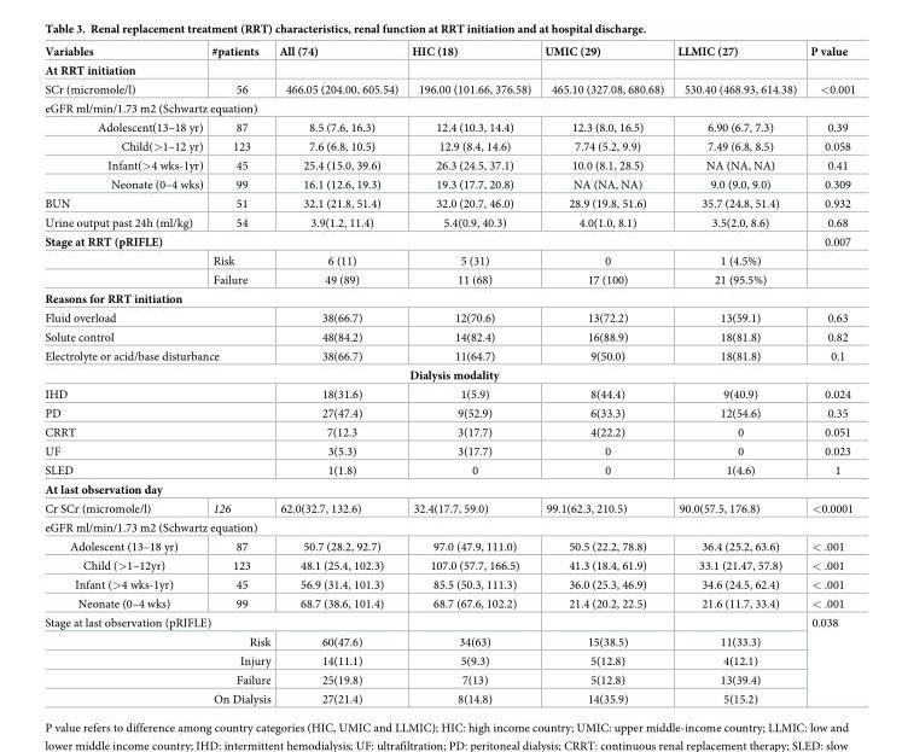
<table><thead><tr><td>Variables</td><td>#patients</td><td>All (74)</td><td>HIC (18)</td><td>UMIC (29)</td><td>LLMIC (27)</td><td>P value</td></tr></thead><tbody><tr><td colspan="7">At RRT initiation</td></tr><tr><td>SCr (micromole/l)</td><td>56</td><td>466.05 (204.00, 605.54)</td><td>196.00 (101.66, 376.58)</td><td>465.10 (327.08, 680.68)</td><td>530.40 (468.93, 614.38)</td><td>&lt;0.001</td></tr><tr><td colspan="7">eGFR ml/min/1.73 m2 (Schwartz equation)</td></tr><tr><td>Adolescent(13–18 yr)</td><td>87</td><td>8.5 (7.6, 16.3)</td><td>12.4 (10.3, 14.4)</td><td>12.3 (8.0, 16.5)</td><td>6.90 (6.7, 7.3)</td><td>0.39</td></tr><tr><td>Child(&gt;1–12 yr)</td><td>123</td><td>7.6 (6.8, 10.5)</td><td>12.9 (8.4, 14.6)</td><td>7.74 (5.2, 9.9)</td><td>7.49 (6.8, 8.5)</td><td>0.058</td></tr><tr><td>Infant(&gt;4 wks-1yr)</td><td>45</td><td>25.4 (15.0, 39.6)</td><td>26.3 (24.5, 37.1)</td><td>10.0 (8.1, 28.5)</td><td>NA (NA, NA)</td><td>0.41</td></tr><tr><td>Neonate (0–4 wks)</td><td>99</td><td>16.1 (12.6, 19.3)</td><td>19.3 (17.7, 20.8)</td><td>NA (NA, NA)</td><td>9.0 (9.0, 9.0)</td><td>0.309</td></tr><tr><td>BUN</td><td>51</td><td>32.1 (21.8, 51.4)</td><td>32.0 (20.7, 46.0)</td><td>28.9 (19.8, 51.6)</td><td>35.7 (24.8, 51.4)</td><td>0.932</td></tr><tr><td>Urine output past 24h (ml/kg)</td><td>54</td><td>3.9(1.2, 11.4)</td><td>5.4(0.9, 40.3)</td><td>4.0(1.0, 8.1)</td><td>3.5(2.0, 8.6)</td><td>0.68</td></tr><tr><td colspan="6">Stage at RRT (pRIFLE)</td><td>0.007</td></tr><tr><td></td><td>Risk</td><td>6 (11)</td><td>5 (31)</td><td>0</td><td>1 (4.5%)</td><td></td></tr><tr><td></td><td>Failure</td><td>49 (89)</td><td>11 (68)</td><td>17 (100)</td><td>21 (95.5%)</td><td></td></tr><tr><td colspan="7">Reasons for RRT initiation</td></tr><tr><td colspan="2">Fluid overload</td><td>38(66.7)</td><td>12(70.6)</td><td>13(72.2)</td><td>13(59.1)</td><td>0.63</td></tr><tr><td colspan="2">Solute control</td><td>48(84.2)</td><td>14(82.4)</td><td>16(88.9)</td><td>18(81.8)</td><td>0.82</td></tr><tr><td colspan="2">Electrolyte or acid/base disturbance</td><td>38(66.7)</td><td>11(64.7)</td><td>9(50.0)</td><td>18(81.8)</td><td>0.1</td></tr><tr><td colspan="7">Dialysis modality</td></tr><tr><td colspan="2">IHD</td><td>18(31.6)</td><td>1(5.9)</td><td>8(44.4)</td><td>9(40.9)</td><td>0.024</td></tr><tr><td colspan="2">PD</td><td>27(47.4)</td><td>9(52.9)</td><td>6(33.3)</td><td>12(54.6)</td><td>0.35</td></tr><tr><td colspan="2">CRRT</td><td>7(12.3</td><td>3(17.7)</td><td>4(22.2)</td><td>0</td><td>0.051</td></tr><tr><td colspan="2">UF</td><td>3(5.3)</td><td>3(17.7)</td><td>0</td><td>0</td><td>0.023</td></tr><tr><td colspan="2">SLED</td><td>1(1.8)</td><td>0</td><td>0</td><td>1(4.6)</td><td>1</td></tr><tr><td colspan="7">At last observation day</td></tr><tr><td>Cr SCr (micromole/l)</td><td>126</td><td>62.0(32.7, 132.6)</td><td>32.4(17.7, 59.0)</td><td>99.1(62.3, 210.5)</td><td>90.0(57.5, 176.8)</td><td>&lt;0.0001</td></tr><tr><td colspan="7">eGFR ml/min/1.73 m2 (Schwartz equation)</td></tr><tr><td>Adolescent (13–18 yr)</td><td>87</td><td>50.7 (28.2, 92.7)</td><td>97.0 (47.9, 111.0)</td><td>50.5 (22.2, 78.8)</td><td>36.4 (25.2, 63.6)</td><td>&lt; .001</td></tr><tr><td>Child (&gt;1–12yr)</td><td>123</td><td>48.1 (25.4, 102.3)</td><td>107.0 (57.7, 166.5)</td><td>41.3 (18.4, 61.9)</td><td>33.1 (21.47, 57.8)</td><td>&lt; .001</td></tr><tr><td>Infant (&gt;4 wks-1yr)</td><td>45</td><td>56.9 (31.4, 101.3)</td><td>85.5 (50.3, 111.3)</td><td>36.0 (25.3, 46.9)</td><td>34.6 (24.5, 62.4)</td><td>&lt; .001</td></tr><tr><td>Neonate (0–4 wks)</td><td>99</td><td>68.7 (38.6, 101.4)</td><td>68.7 (67.6, 102.2)</td><td>21.4 (20.2, 22.5)</td><td>21.6 (11.7, 33.4)</td><td>&lt; .001</td></tr><tr><td colspan="6">Stage at last observation (pRIFLE)</td><td rowspan="5">0.038</td></tr><tr><td colspan="2">Risk</td><td>60(47.6)</td><td>34(63)</td><td>15(38.5)</td><td>11(33.3)</td></tr><tr><td colspan="2">Injury</td><td>14(11.1)</td><td>5(9.3)</td><td>5(12.8)</td><td>4(12.1)</td></tr><tr><td colspan="2">Failure</td><td>25(19.8)</td><td>7(13)</td><td>5(12.8)</td><td>13(39.4)</td></tr><tr><td colspan="2">On Dialysis</td><td>27(21.4)</td><td>8(14.8)</td><td>14(35.9)</td><td>5(15.2)</td></tr></tbody></table>